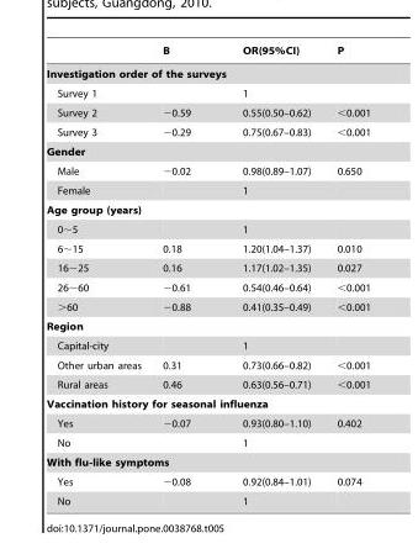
<table><thead><tr><td></td><td>B</td><td>OR(95%CI)</td><td>P</td></tr></thead><tbody><tr><td colspan="4">Investigation order of the surveys</td></tr><tr><td>Survey 1</td><td></td><td>1</td><td></td></tr><tr><td>Survey 2</td><td>−0.59</td><td>0.55(0.50–0.62)</td><td>&lt;0.001</td></tr><tr><td>Survey 3</td><td>−0.29</td><td>0.75(0.67–0.83)</td><td>&lt;0.001</td></tr><tr><td colspan="4">Gender</td></tr><tr><td>Male</td><td>−0.02</td><td>0.98(0.89–1.07)</td><td>0.650</td></tr><tr><td>Female</td><td></td><td>1</td><td></td></tr><tr><td colspan="4">Age group (years)</td></tr><tr><td>0∼5</td><td></td><td>1</td><td></td></tr><tr><td>6∼15</td><td>0.18</td><td>1.20(1.04–1.37)</td><td>0.010</td></tr><tr><td>16∼25</td><td>0.16</td><td>1.17(1.02–1.35)</td><td>0.027</td></tr><tr><td>26∼60</td><td>−0.61</td><td>0.54(0.46–0.64)</td><td>&lt;0.001</td></tr><tr><td>&gt;60</td><td>−0.88</td><td>0.41(0.35–0.49)</td><td>&lt;0.001</td></tr><tr><td colspan="4">Region</td></tr><tr><td>Capital-city</td><td></td><td>1</td><td></td></tr><tr><td>Other urban areas</td><td>0.31</td><td>0.73(0.66–0.82)</td><td>&lt;0.001</td></tr><tr><td>Rural areas</td><td>0.46</td><td>0.63(0.56–0.71)</td><td>&lt;0.001</td></tr><tr><td colspan="4">Vaccination history for seasonal influenza</td></tr><tr><td>Yes</td><td>−0.07</td><td>0.93(0.80–1.10)</td><td>0.402</td></tr><tr><td>No</td><td></td><td>1</td><td></td></tr><tr><td colspan="4">With flu-like symptoms</td></tr><tr><td>Yes</td><td>−0.08</td><td>0.92(0.84–1.01)</td><td>0.074</td></tr><tr><td>No</td><td></td><td>1</td><td></td></tr></tbody></table>